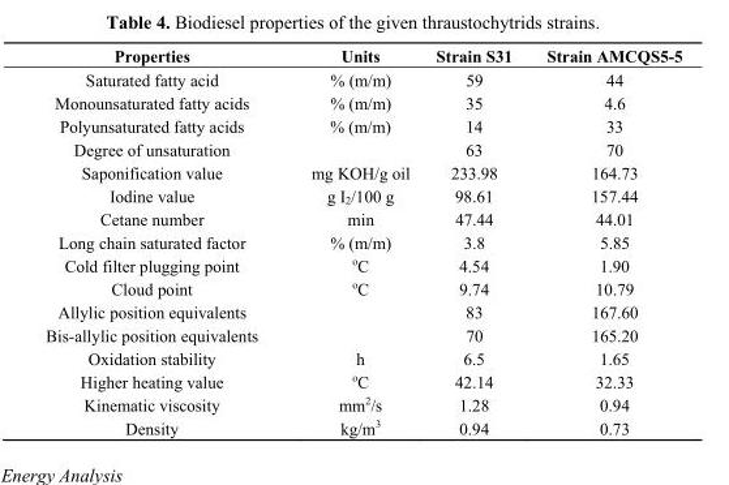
<table><thead><tr><td>Properties</td><td>Units</td><td>Strain S31</td><td>Strain AMCQS5-5</td></tr></thead><tbody><tr><td>Saturated fatty acid</td><td>% (m/m)</td><td>59</td><td>44</td></tr><tr><td>Monounsaturated fatty acids</td><td>% (m/m)</td><td>35</td><td>4.6</td></tr><tr><td>Polyunsaturated fatty acids</td><td>% (m/m)</td><td>14</td><td>33</td></tr><tr><td>Degree of unsaturation</td><td></td><td>63</td><td>70</td></tr><tr><td>Saponification value</td><td>mg KOH/g oil</td><td>233.98</td><td>164.73</td></tr><tr><td>Iodine value</td><td>g I<sub>2</sub>/100 g</td><td>98.61</td><td>157.44</td></tr><tr><td>Cetane number</td><td>min</td><td>47.44</td><td>44.01</td></tr><tr><td>Long chain saturated factor</td><td>% (m/m)</td><td>3.8</td><td>5.85</td></tr><tr><td>Cold filter plugging point</td><td><sup>o</sup>C</td><td>4.54</td><td>1.90</td></tr><tr><td>Cloud point</td><td><sup>o</sup>C</td><td>9.74</td><td>10.79</td></tr><tr><td>Allylic position equivalents</td><td></td><td>83</td><td>167.60</td></tr><tr><td>Bis-allylic position equivalents</td><td></td><td>70</td><td>165.20</td></tr><tr><td>Oxidation stability</td><td>h</td><td>6.5</td><td>1.65</td></tr><tr><td>Higher heating value</td><td><sup>o</sup>C</td><td>42.14</td><td>32.33</td></tr><tr><td>Kinematic viscosity</td><td>mm<sup>2</sup>/s</td><td>1.28</td><td>0.94</td></tr><tr><td>Density</td><td>kg/m<sup>3</sup></td><td>0.94</td><td>0.73</td></tr></tbody></table>